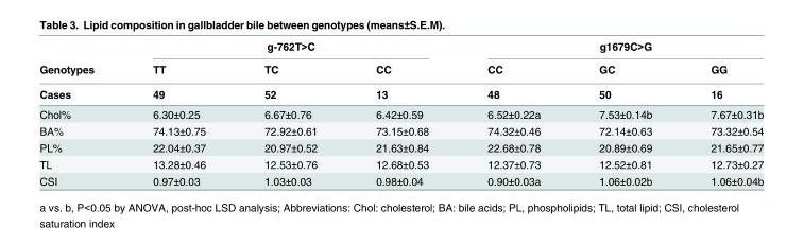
<table><thead><tr><td rowspan="3">Genotypes Cases</td><td colspan="3">g-762T&gt;C</td><td colspan="3">g1679C&gt;G</td></tr><tr><td rowspan="2">TT 49</td><td rowspan="2">TC 52</td><td rowspan="2">CC 13</td><td rowspan="2">CC 48</td><td rowspan="2">GC 50</td><td rowspan="2">GG 16</td></tr><tr></tr></thead><tbody><tr><td>Chol%</td><td>6.30±0.25</td><td>6.67±0.76</td><td>6.42±0.59</td><td>6.52±0.22a</td><td>7.53±0.14b</td><td>7.67±0.31b</td></tr><tr><td>BA%</td><td>74.13±0.75</td><td>72.92±0.61</td><td>73.15±0.68</td><td>74.32±0.46</td><td>72.14±0.63</td><td>73.32±0.54</td></tr><tr><td>PL%</td><td>22.04±0.37</td><td>20.97±0.52</td><td>21.63±0.84</td><td>22.68±0.78</td><td>20.89±0.69</td><td>21.65±0.77</td></tr><tr><td>TL</td><td>13.28±0.46</td><td>12.53±0.76</td><td>12.68±0.53</td><td>12.37±0.73</td><td>12.52±0.81</td><td>12.73±0.27</td></tr><tr><td>CSI</td><td>0.97±0.03</td><td>1.03±0.03</td><td>0.98±0.04</td><td>0.90±0.03a</td><td>1.06±0.02b</td><td>1.06±0.04b</td></tr></tbody></table>